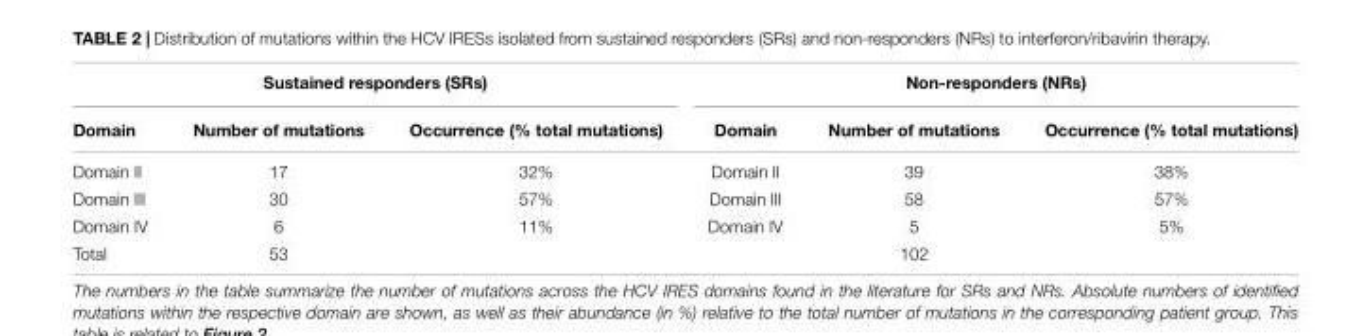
<table><thead><tr><td colspan="3">Sustained responders (SRs)</td><td colspan="3">Non-responders (NRs)</td></tr><tr><td>Domain</td><td>Number of mutations</td><td>Occurrence (% total mutations)</td><td>Domain</td><td>Number of mutations</td><td>Occurrence (% total mutations)</td></tr></thead><tbody><tr><td>Domain II</td><td>17</td><td>32%</td><td>Domain II</td><td>39</td><td>38%</td></tr><tr><td>Domain III</td><td>30</td><td>57%</td><td>Domain III</td><td>58</td><td>57%</td></tr><tr><td>Domain IV</td><td>6</td><td>11%</td><td>Domain IV</td><td>5</td><td>5%</td></tr><tr><td>Total</td><td>53</td><td></td><td></td><td>102</td><td></td></tr></tbody></table>